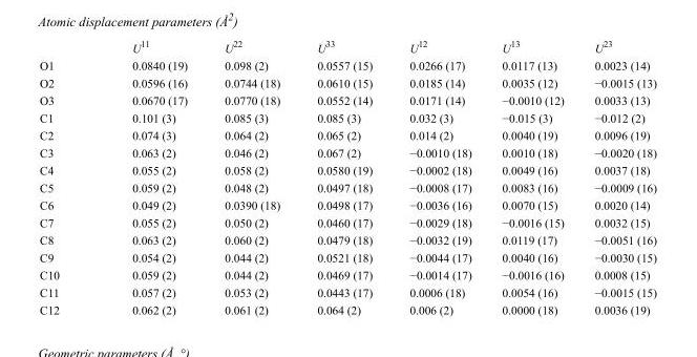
<table><thead><tr><td></td><td>U<sup>11</sup></td><td>U<sup>22</sup></td><td>U<sup>33</sup></td><td>U<sup>12</sup></td><td>U<sup>13</sup></td><td>U<sup>23</sup></td></tr></thead><tbody><tr><td>O1</td><td>0.0840 (19)</td><td>0.098 (2)</td><td>0.0557 (15)</td><td>0.0266 (17)</td><td>0.0117 (13)</td><td>0.0023 (14)</td></tr><tr><td>O2</td><td>0.0596 (16)</td><td>0.0744 (18)</td><td>0.0610 (15)</td><td>0.0185 (14)</td><td>0.0035 (12)</td><td>−0.0015 (13)</td></tr><tr><td>O3</td><td>0.0670 (17)</td><td>0.0770 (18)</td><td>0.0552 (14)</td><td>0.0171 (14)</td><td>−0.0010 (12)</td><td>0.0033 (13)</td></tr><tr><td>C1</td><td>0.101 (3)</td><td>0.085 (3)</td><td>0.085 (3)</td><td>0.032 (3)</td><td>−0.015 (3)</td><td>−0.012 (2)</td></tr><tr><td>C2</td><td>0.074 (3)</td><td>0.064 (2)</td><td>0.065 (2)</td><td>0.014 (2)</td><td>0.0040 (19)</td><td>0.0096 (19)</td></tr><tr><td>C3</td><td>0.063 (2)</td><td>0.046 (2)</td><td>0.067 (2)</td><td>−0.0010 (18)</td><td>0.0010 (18)</td><td>−0.0020 (18)</td></tr><tr><td>C4</td><td>0.055 (2)</td><td>0.058 (2)</td><td>0.0580 (19)</td><td>−0.0002 (18)</td><td>0.0049 (16)</td><td>0.0037 (18)</td></tr><tr><td>C5</td><td>0.059 (2)</td><td>0.048 (2)</td><td>0.0497 (18)</td><td>−0.0008 (17)</td><td>0.0083 (16)</td><td>−0.0009 (16)</td></tr><tr><td>C6</td><td>0.049 (2)</td><td>0.0390 (18)</td><td>0.0498 (17)</td><td>−0.0036 (16)</td><td>0.0070 (15)</td><td>0.0020 (14)</td></tr><tr><td>C7</td><td>0.055 (2)</td><td>0.050 (2)</td><td>0.0460 (17)</td><td>−0.0029 (18)</td><td>−0.0016 (15)</td><td>0.0032 (15)</td></tr><tr><td>C8</td><td>0.063 (2)</td><td>0.060 (2)</td><td>0.0479 (18)</td><td>−0.0032 (19)</td><td>0.0119 (17)</td><td>−0.0051 (16)</td></tr><tr><td>C9</td><td>0.054 (2)</td><td>0.044 (2)</td><td>0.0521 (18)</td><td>−0.0044 (17)</td><td>0.0040 (16)</td><td>−0.0030 (15)</td></tr><tr><td>C10</td><td>0.059 (2)</td><td>0.044 (2)</td><td>0.0469 (17)</td><td>−0.0014 (17)</td><td>−0.0016 (16)</td><td>0.0008 (15)</td></tr><tr><td>C11</td><td>0.057 (2)</td><td>0.053 (2)</td><td>0.0443 (17)</td><td>0.0006 (18)</td><td>0.0054 (16)</td><td>−0.0015 (15)</td></tr><tr><td>C12</td><td>0.062 (2)</td><td>0.061 (2)</td><td>0.064 (2)</td><td>0.006 (2)</td><td>0.0000 (18)</td><td>0.0036 (19)</td></tr></tbody></table>